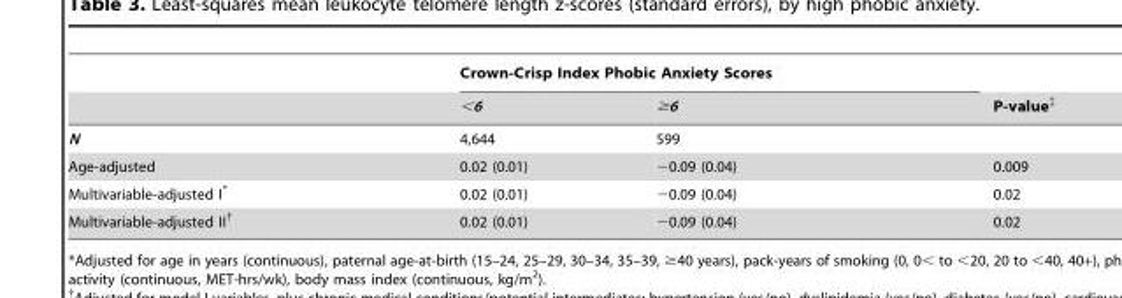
<table><thead><tr><td rowspan="2"></td><td colspan="2">Crown-Crisp Index Phobic Anxiety Scores</td><td rowspan="2">P-value‡</td></tr><tr><td>&lt;6</td><td>≥6</td></tr></thead><tbody><tr><td>N</td><td>4,644</td><td>599</td><td></td></tr><tr><td>Age-adjusted</td><td>0.02 (0.01)</td><td>−0.09 (0.04)</td><td>0.009</td></tr><tr><td>Multivariable-adjusted I*</td><td>0.02 (0.01)</td><td>−0.09 (0.04)</td><td>0.02</td></tr><tr><td>Multivariable-adjusted II†</td><td>0.02 (0.01)</td><td>−0.09 (0.04)</td><td>0.02</td></tr></tbody></table>